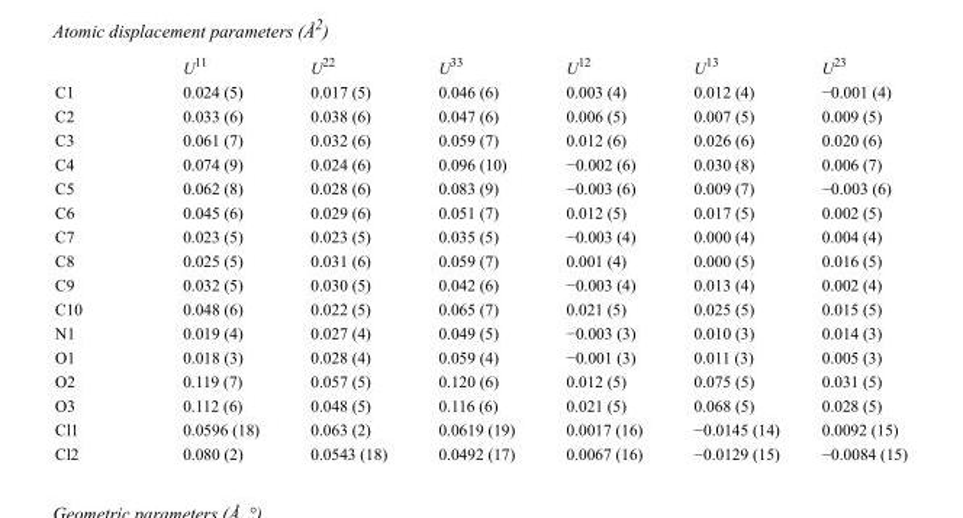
<table><thead><tr><td></td><td>U<sup>11</sup></td><td>U<sup>22</sup></td><td>U<sup>33</sup></td><td>U<sup>12</sup></td><td>U<sup>13</sup></td><td>U<sup>23</sup></td></tr></thead><tbody><tr><td>C1</td><td>0.024 (5)</td><td>0.017 (5)</td><td>0.046 (6)</td><td>0.003 (4)</td><td>0.012 (4)</td><td>−0.001 (4)</td></tr><tr><td>C2</td><td>0.033 (6)</td><td>0.038 (6)</td><td>0.047 (6)</td><td>0.006 (5)</td><td>0.007 (5)</td><td>0.009 (5)</td></tr><tr><td>C3</td><td>0.061 (7)</td><td>0.032 (6)</td><td>0.059 (7)</td><td>0.012 (6)</td><td>0.026 (6)</td><td>0.020 (6)</td></tr><tr><td>C4</td><td>0.074 (9)</td><td>0.024 (6)</td><td>0.096 (10)</td><td>−0.002 (6)</td><td>0.030 (8)</td><td>0.006 (7)</td></tr><tr><td>C5</td><td>0.062 (8)</td><td>0.028 (6)</td><td>0.083 (9)</td><td>−0.003 (6)</td><td>0.009 (7)</td><td>−0.003 (6)</td></tr><tr><td>C6</td><td>0.045 (6)</td><td>0.029 (6)</td><td>0.051 (7)</td><td>0.012 (5)</td><td>0.017 (5)</td><td>0.002 (5)</td></tr><tr><td>C7</td><td>0.023 (5)</td><td>0.023 (5)</td><td>0.035 (5)</td><td>−0.003 (4)</td><td>0.000 (4)</td><td>0.004 (4)</td></tr><tr><td>C8</td><td>0.025 (5)</td><td>0.031 (6)</td><td>0.059 (7)</td><td>0.001 (4)</td><td>0.000 (5)</td><td>0.016 (5)</td></tr><tr><td>C9</td><td>0.032 (5)</td><td>0.030 (5)</td><td>0.042 (6)</td><td>−0.003 (4)</td><td>0.013 (4)</td><td>0.002 (4)</td></tr><tr><td>C10</td><td>0.048 (6)</td><td>0.022 (5)</td><td>0.065 (7)</td><td>0.021 (5)</td><td>0.025 (5)</td><td>0.015 (5)</td></tr><tr><td>N1</td><td>0.019 (4)</td><td>0.027 (4)</td><td>0.049 (5)</td><td>−0.003 (3)</td><td>0.010 (3)</td><td>0.014 (3)</td></tr><tr><td>O1</td><td>0.018 (3)</td><td>0.028 (4)</td><td>0.059 (4)</td><td>−0.001 (3)</td><td>0.011 (3)</td><td>0.005 (3)</td></tr><tr><td>O2</td><td>0.119 (7)</td><td>0.057 (5)</td><td>0.120 (6)</td><td>0.012 (5)</td><td>0.075 (5)</td><td>0.031 (5)</td></tr><tr><td>O3</td><td>0.112 (6)</td><td>0.048 (5)</td><td>0.116 (6)</td><td>0.021 (5)</td><td>0.068 (5)</td><td>0.028 (5)</td></tr><tr><td>Cl1</td><td>0.0596 (18)</td><td>0.063 (2)</td><td>0.0619 (19)</td><td>0.0017 (16)</td><td>−0.0145 (14)</td><td>0.0092 (15)</td></tr><tr><td>Cl2</td><td>0.080 (2)</td><td>0.0543 (18)</td><td>0.0492 (17)</td><td>0.0067 (16)</td><td>−0.0129 (15)</td><td>−0.0084 (15)</td></tr></tbody></table>